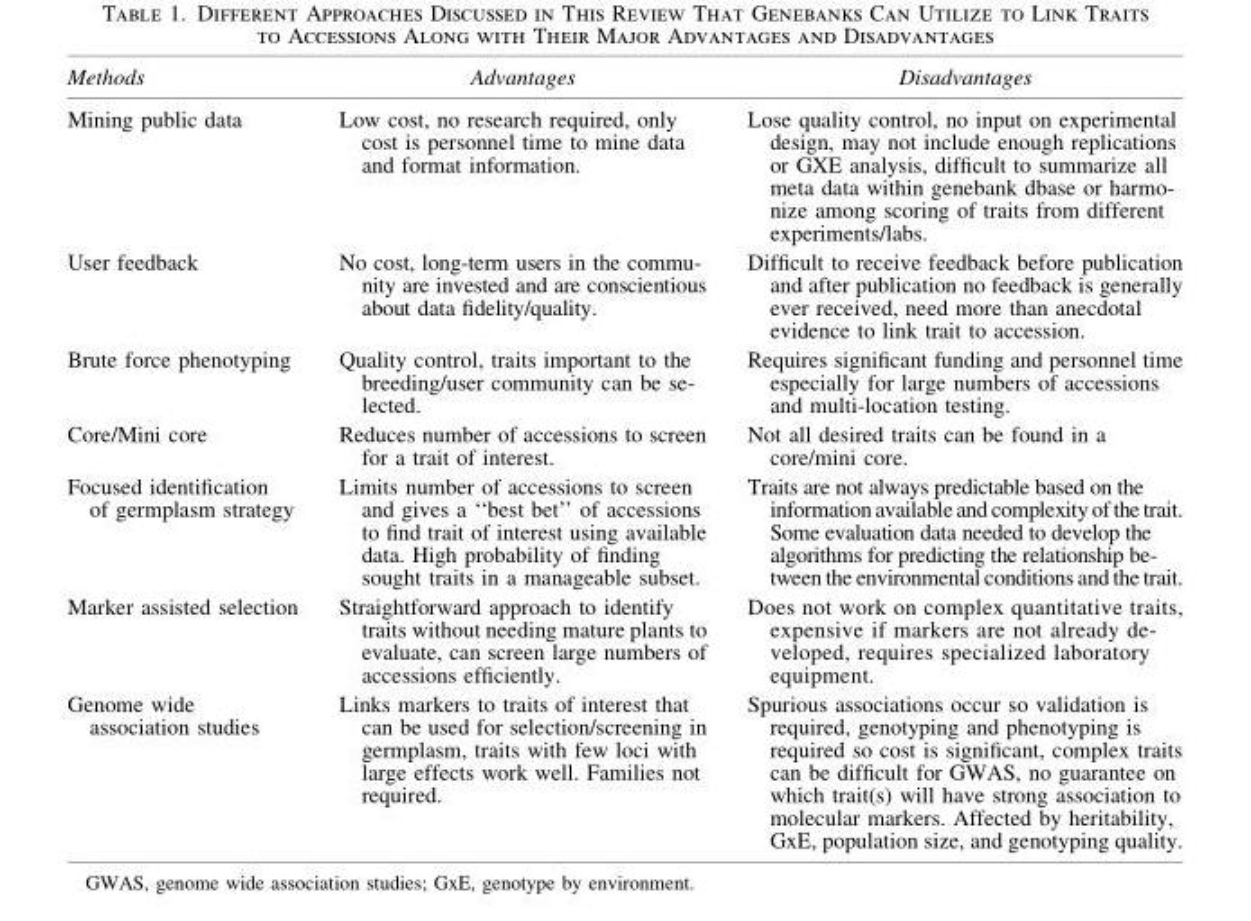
<table><thead><tr><td>Methods</td><td>Advantages</td><td>Disadvantages</td></tr></thead><tbody><tr><td>Mining public data</td><td>Low cost, no research required, only cost is personnel time to mine data and format information.</td><td>Lose quality control, no input on experimental design, may not include enough replications or GXE analysis, difficult to summarize all meta data within genebank dbase or harmo- nize among scoring of traits from different experiments/labs.</td></tr><tr><td>User feedback</td><td>No cost, long-term users in the commu- nity are invested and are conscientious about data fidelity/quality.</td><td>Difficult to receive feedback before publication and after publication no feedback is generally ever received, need more than anecdotal evidence to link trait to accession.</td></tr><tr><td>Brute force phenotyping</td><td>Quality control, traits important to the breeding/user community can be se- lected.</td><td>Requires significant funding and personnel time especially for large numbers of accessions and multi-location testing.</td></tr><tr><td>Core/Mini core</td><td>Reduces number of accessions to screen for a trait of interest.</td><td>Not all desired traits can be found in a core/mini core.</td></tr><tr><td>Focused identification of germplasm strategy</td><td>Limits number of accessions to screen and gives a ‘‘best bet’’ of accessions to find trait of interest using available data. High probability of finding sought traits in a manageable subset.</td><td>Traits are not always predictable based on the information availableand complexityof the trait. Some evaluation data needed to develop the algorithms for predicting the relationship be- tween the environmental conditions and the trait.</td></tr><tr><td>Marker assisted selection</td><td>Straightforward approach to identify traits without needing mature plants to evaluate, can screen large numbers of accessions efficiently.</td><td>Does not work on complex quantitative traits, expensive if markers are not already de- veloped, requires specialized laboratory equipment.</td></tr><tr><td>Genome wide association studies</td><td>Links markers to traits of interest that can be used for selection/screening in germplasm, traits with few loci with large effects work well. Families not required.</td><td>Spurious associations occur so validation is required, genotyping and phenotyping is required so cost is significant, complex traits can be difficult for GWAS, no guarantee on which trait(s) will have strong association to molecular markers. Affected by heritability, GxE, population size, and genotyping quality.</td></tr></tbody></table>